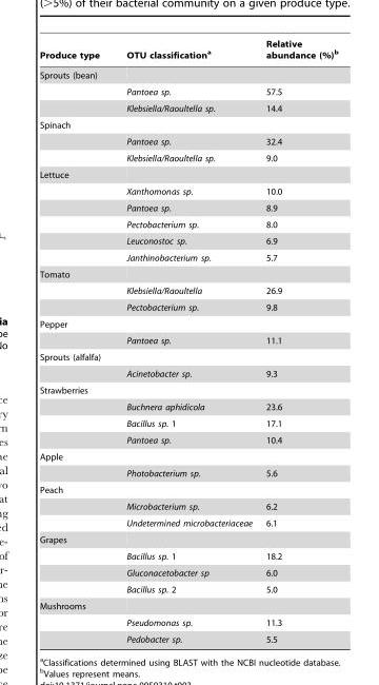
<table><thead><tr><td>Produce type</td><td>OTU classification<sup>a</sup></td><td>Relative abundance (%)<sup>b</sup></td></tr></thead><tbody><tr><td colspan="3">Sprouts (bean)</td></tr><tr><td></td><td>Pantoea sp.</td><td>57.5</td></tr><tr><td></td><td>Klebsiella/Raoultella sp.</td><td>14.4</td></tr><tr><td colspan="3">Spinach</td></tr><tr><td></td><td>Pantoea sp.</td><td>32.4</td></tr><tr><td></td><td>Klebsiella/Raoultella sp.</td><td>9.0</td></tr><tr><td colspan="3">Lettuce</td></tr><tr><td></td><td>Xanthomonas sp.</td><td>10.0</td></tr><tr><td></td><td>Pantoea sp.</td><td>8.9</td></tr><tr><td></td><td>Pectobacterium sp.</td><td>8.0</td></tr><tr><td></td><td>Leuconostoc sp.</td><td>6.9</td></tr><tr><td></td><td>Janthinobacterium sp.</td><td>5.7</td></tr><tr><td colspan="3">Tomato</td></tr><tr><td></td><td>Klebsiella/Raoultella</td><td>26.9</td></tr><tr><td></td><td>Pectobacterium sp.</td><td>9.8</td></tr><tr><td colspan="3">Pepper</td></tr><tr><td></td><td>Pantoea sp.</td><td>11.1</td></tr><tr><td colspan="3">Sprouts (alfalfa)</td></tr><tr><td></td><td>Acinetobacter sp.</td><td>9.3</td></tr><tr><td colspan="3">Strawberries</td></tr><tr><td></td><td>Buchnera aphidicola</td><td>23.6</td></tr><tr><td></td><td>Bacillus sp. 1</td><td>17.1</td></tr><tr><td></td><td>Pantoea sp.</td><td>10.4</td></tr><tr><td colspan="3">Apple</td></tr><tr><td></td><td>Photobacterium sp.</td><td>5.6</td></tr><tr><td colspan="3">Peach</td></tr><tr><td></td><td>Microbacterium sp.</td><td>6.2</td></tr><tr><td></td><td>Undetermined microbacteriaceae</td><td>6.1</td></tr><tr><td colspan="3">Grapes</td></tr><tr><td></td><td>Bacillus sp. 1</td><td>18.2</td></tr><tr><td></td><td>Gluconacetobacter sp</td><td>6.0</td></tr><tr><td></td><td>Bacillus sp. 2</td><td>5.0</td></tr><tr><td colspan="3">Mushrooms</td></tr><tr><td></td><td>Pseudomonas sp.</td><td>11.3</td></tr><tr><td></td><td>Pedobacter sp.</td><td>5.5</td></tr></tbody></table>